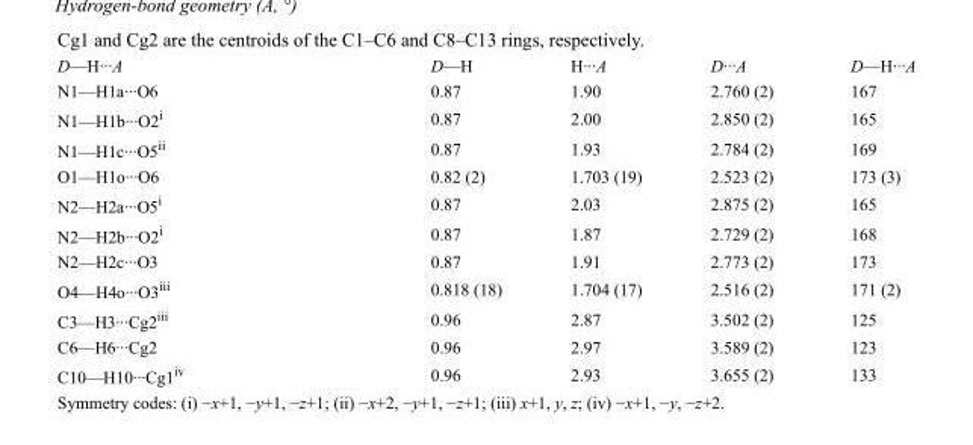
<table><tbody><tr><td>D—H···A</td><td>D—H</td><td>H···A</td><td>D···A</td><td>D—H···A</td></tr><tr><td>N1—H1a···O6</td><td>0.87</td><td>1.90</td><td>2.760 (2)</td><td>167</td></tr><tr><td>N1—H1b···O2<sup>i</sup></td><td>0.87</td><td>2.00</td><td>2.850 (2)</td><td>165</td></tr><tr><td>N1—H1c···O5<sup>ii</sup></td><td>0.87</td><td>1.93</td><td>2.784 (2)</td><td>169</td></tr><tr><td>O1—H1o···O6</td><td>0.82 (2)</td><td>1.703 (19)</td><td>2.523 (2)</td><td>173 (3)</td></tr><tr><td>N2—H2a···O5<sup>i</sup></td><td>0.87</td><td>2.03</td><td>2.875 (2)</td><td>165</td></tr><tr><td>N2—H2b···O2<sup>i</sup></td><td>0.87</td><td>1.87</td><td>2.729 (2)</td><td>168</td></tr><tr><td>N2—H2c···O3</td><td>0.87</td><td>1.91</td><td>2.773 (2)</td><td>173</td></tr><tr><td>O4—H4o···O3<sup>iii</sup></td><td>0.818 (18)</td><td>1.704 (17)</td><td>2.516 (2)</td><td>171 (2)</td></tr><tr><td>C3—H3···Cg2<sup>iii</sup></td><td>0.96</td><td>2.87</td><td>3.502 (2)</td><td>125</td></tr><tr><td>C6—H6···Cg2</td><td>0.96</td><td>2.97</td><td>3.589 (2)</td><td>123</td></tr><tr><td>C10—H10···Cg1<sup>iv</sup></td><td>0.96</td><td>2.93</td><td>3.655 (2)</td><td>133</td></tr></tbody></table>